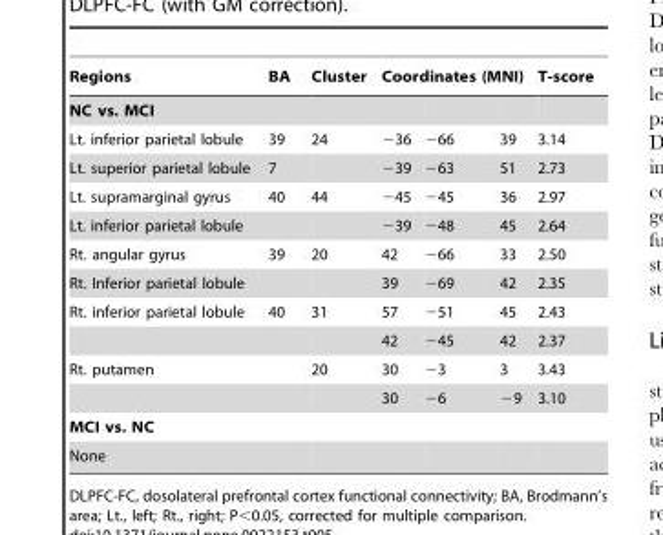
<table><thead><tr><td>Regions</td><td>BA</td><td>Cluster</td><td colspan="3">Coordinates (MNI)</td><td rowspan="2">T-score</td></tr><tr><td colspan="3">NC vs. MCI</td><td></td><td></td><td></td></tr></thead><tbody><tr><td>Lt. inferior parietal lobule</td><td>39</td><td>24</td><td>−36</td><td>−66</td><td>39</td><td>3.14</td></tr><tr><td>Lt. superior parietal lobule</td><td>7</td><td></td><td>−39</td><td>−63</td><td>51</td><td>2.73</td></tr><tr><td>Lt. supramarginal gyrus</td><td>40</td><td>44</td><td>−45</td><td>−45</td><td>36</td><td>2.97</td></tr><tr><td>Lt. inferior parietal lobule</td><td></td><td></td><td>−39</td><td>−48</td><td>45</td><td>2.64</td></tr><tr><td>Rt. angular gyrus</td><td>39</td><td>20</td><td>42</td><td>−66</td><td>33</td><td>2.50</td></tr><tr><td>Rt. Inferior parietal lobule</td><td></td><td></td><td>39</td><td>−69</td><td>42</td><td>2.35</td></tr><tr><td rowspan="2">Rt. inferior parietal lobule</td><td>40</td><td>31</td><td>57</td><td>−51</td><td>45</td><td>2.43</td></tr><tr><td></td><td></td><td>42</td><td>−45</td><td>42</td><td>2.37</td></tr><tr><td rowspan="2">Rt. putamen</td><td></td><td>20</td><td>30</td><td>−3</td><td>3</td><td>3.43</td></tr><tr><td></td><td></td><td>30</td><td>−6</td><td>−9</td><td>3.10</td></tr><tr><td colspan="7">MCI vs. NC</td></tr><tr><td>None</td><td></td><td></td><td></td><td></td><td></td><td></td></tr></tbody></table>